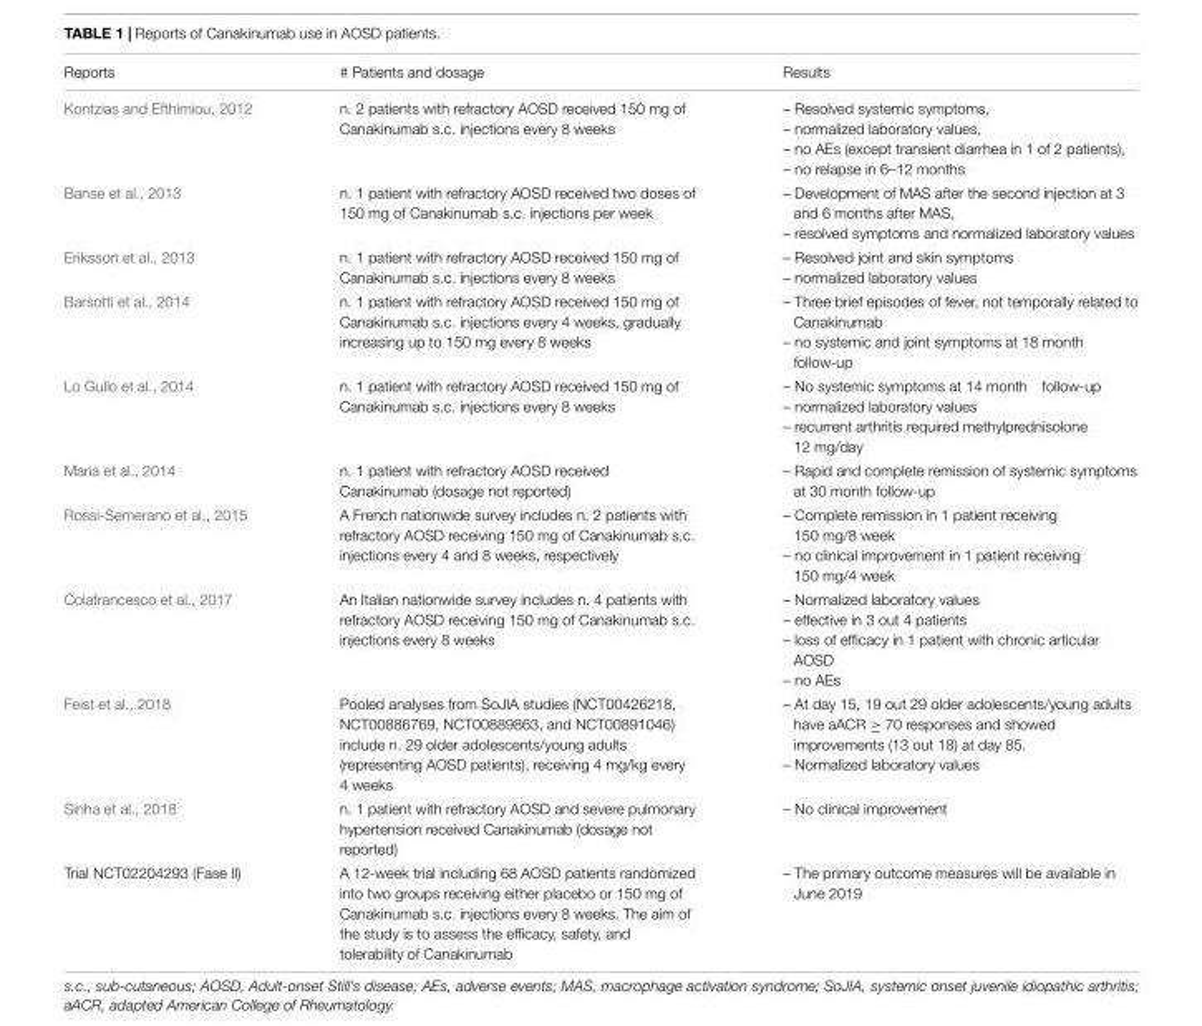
<table><thead><tr><td>Reports</td><td># Patients and dosage</td><td>Results</td></tr></thead><tbody><tr><td>Kontzias and Efthimiou, 2012</td><td>n. 2 patients with refractory AOSD received 150 mg of Canakinumab s.c. injections every 8 weeks</td><td>– Resolved systemic symptoms, – normalized laboratory values, – no AEs (except transient diarrhea in 1 of 2 patients), – no relapse in 6–12 months</td></tr><tr><td>Banse et al., 2013</td><td>n. 1 patient with refractory AOSD received two doses of 150 mg of Canakinumab s.c. injections per week</td><td>– Development of MAS after the second injection at 3 and 6 months after MAS, – resolved symptoms and normalized laboratory values</td></tr><tr><td>Eriksson et al., 2013</td><td>n. 1 patient with refractory AOSD received 150 mg of Canakinumab s.c. injections every 8 weeks</td><td>– Resolved joint and skin symptoms – normalized laboratory values</td></tr><tr><td>Barsotti et al., 2014</td><td>n. 1 patient with refractory AOSD received 150 mg of Canakinumab s.c. injections every 4 weeks, gradually increasing up to 150 mg every 8 weeks</td><td>– Three brief episodes of fever, not temporally related to Canakinumab – no systemic and joint symptoms at 18 month follow-up</td></tr><tr><td>Lo Gullo et al., 2014</td><td>n. 1 patient with refractory AOSD received 150 mg of Canakinumab s.c. injections every 8 weeks</td><td>– No systemic symptoms at 14 month follow-up – normalized laboratory values – recurrent arthritis required methylprednisolone 12 mg/day</td></tr><tr><td>Maria et al., 2014</td><td>n. 1 patient with refractory AOSD received Canakinumab (dosage not reported)</td><td>– Rapid and complete remission of systemic symptoms at 30 month follow-up</td></tr><tr><td>Rossi-Semerano et al., 2015</td><td>A French nationwide survey includes n. 2 patients with refractory AOSD receiving 150 mg of Canakinumab s.c. injections every 4 and 8 weeks, respectively</td><td>– Complete remission in 1 patient receiving 150 mg/8 week – no clinical improvement in 1 patient receiving 150 mg/4 week</td></tr><tr><td>Colafrancesco et al., 2017</td><td>An Italian nationwide survey includes n. 4 patients with refractory AOSD receiving 150 mg of Canakinumab s.c. injections every 8 weeks</td><td>– Normalized laboratory values – effective in 3 out 4 patients – loss of efficacy in 1 patient with chronic articular AOSD – no AEs</td></tr><tr><td>Feist et al., 2018</td><td>Pooled analyses from SoJIA studies (NCT00426218, NCT00886769, NCT00889863, and NCT00891046) include n. 29 older adolescents/young adults (representing AOSD patients), receiving 4 mg/kg every 4 weeks</td><td>– At day 15, 19 out 29 older adolescents/young adults have aACR ≥ 70 responses and showed improvements (13 out 18) at day 85. – Normalized laboratory values</td></tr><tr><td>Sinha et al., 2018</td><td>n. 1 patient with refractory AOSD and severe pulmonary hypertension received Canakinumab (dosage not reported)</td><td>– No clinical improvement</td></tr><tr><td>Trial NCT02204293 (Fase II)</td><td>A 12-week trial including 68 AOSD patients randomized into two groups receiving either placebo or 150 mg of Canakinumab s.c. injections every 8 weeks. The aim of the study is to assess the efficacy, safety, and tolerability of Canakinumab</td><td>– The primary outcome measures will be available in June 2019</td></tr></tbody></table>